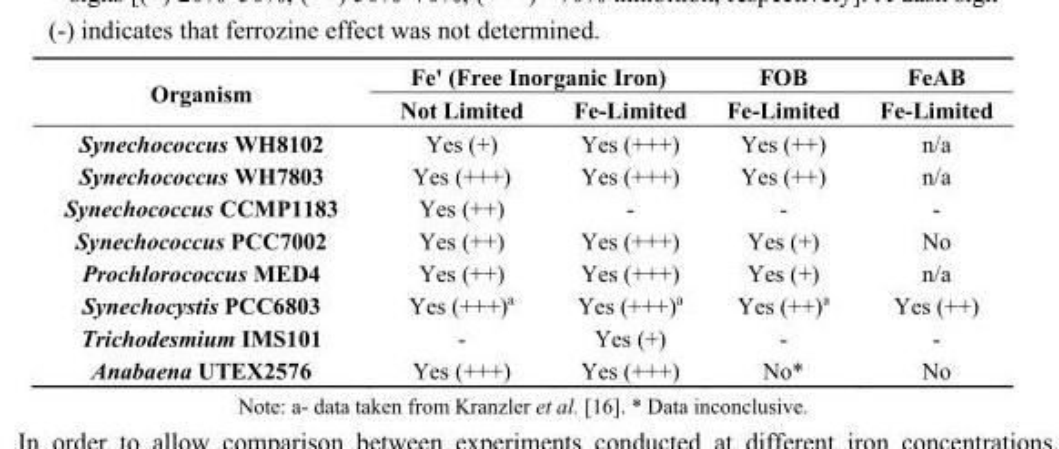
<table><thead><tr><td rowspan="2">Organism</td><td colspan="2">Fe&#x27; (Free Inorganic Iron)</td><td rowspan="2">FOB Fe-Limited</td><td rowspan="2">FeAB Fe-Limited</td></tr><tr><td>Not Limited</td><td>Fe-Limited</td></tr></thead><tbody><tr><td>Synechococcus WH8102</td><td>Yes (+)</td><td>Yes (+++)</td><td>Yes (++)</td><td>n/a</td></tr><tr><td>Synechococcus WH7803</td><td>Yes (+++)</td><td>Yes (+++)</td><td>Yes (++)</td><td>n/a</td></tr><tr><td>Synechococcus CCMP1183</td><td>Yes (++)</td><td>-</td><td>-</td><td>-</td></tr><tr><td>Synechococcus PCC7002</td><td>Yes (++)</td><td>Yes (+++)</td><td>Yes (+)</td><td>No</td></tr><tr><td>Prochlorococcus MED4</td><td>Yes (++)</td><td>Yes (+++)</td><td>Yes (+)</td><td>n/a</td></tr><tr><td>Synechocystis PCC6803</td><td>Yes (+++)<sup>a</sup></td><td>Yes (+++)<sup>a</sup></td><td>Yes (++)<sup>a</sup></td><td>Yes (++)</td></tr><tr><td>Trichodesmium IMS101</td><td>-</td><td>Yes (+)</td><td>-</td><td>-</td></tr><tr><td>Anabaena UTEX2576</td><td>Yes (+++)</td><td>Yes (+++)</td><td>No*</td><td>No</td></tr></tbody></table>